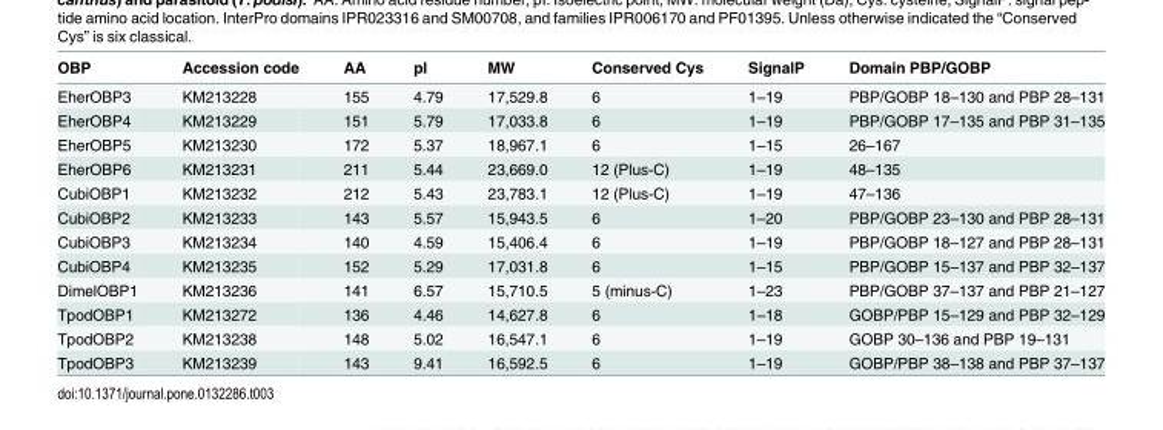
<table><thead><tr><td>OBP</td><td>Accession code</td><td>AA</td><td>pI</td><td>MW</td><td>Conserved Cys</td><td>SignalP</td><td>Domain PBP/GOBP</td></tr></thead><tbody><tr><td>EherOBP3</td><td>KM213228</td><td>155</td><td>4.79</td><td>17,529.8</td><td>6</td><td>1–19</td><td>PBP/GOBP 18–130 and PBP 28–131</td></tr><tr><td>EherOBP4</td><td>KM213229</td><td>151</td><td>5.79</td><td>17,033.8</td><td>6</td><td>1–19</td><td>PBP/GOBP 17–135 and PBP 31–135</td></tr><tr><td>EherOBP5</td><td>KM213230</td><td>172</td><td>5.37</td><td>18,967.1</td><td>6</td><td>1–15</td><td>26–167</td></tr><tr><td>EherOBP6</td><td>KM213231</td><td>211</td><td>5.44</td><td>23,669.0</td><td>12 (Plus-C)</td><td>1–19</td><td>48–135</td></tr><tr><td>CubiOBP1</td><td>KM213232</td><td>212</td><td>5.43</td><td>23,783.1</td><td>12 (Plus-C)</td><td>1–19</td><td>47–136</td></tr><tr><td>CubiOBP2</td><td>KM213233</td><td>143</td><td>5.57</td><td>15,943.5</td><td>6</td><td>1–20</td><td>PBP/GOBP 23–130 and PBP 28–131</td></tr><tr><td>CubiOBP3</td><td>KM213234</td><td>140</td><td>4.59</td><td>15,406.4</td><td>6</td><td>1–19</td><td>PBP/GOBP 18–127 and PBP 28–131</td></tr><tr><td>CubiOBP4</td><td>KM213235</td><td>152</td><td>5.29</td><td>17,031.8</td><td>6</td><td>1–15</td><td>PBP/GOBP 15–137 and PBP 32–137</td></tr><tr><td>DimelOBP1</td><td>KM213236</td><td>141</td><td>6.57</td><td>15,710.5</td><td>5 (minus-C)</td><td>1–23</td><td>PBP/GOBP 37–137 and PBP 21–127</td></tr><tr><td>TpodOBP1</td><td>KM213272</td><td>136</td><td>4.46</td><td>14,627.8</td><td>6</td><td>1–18</td><td>GOBP/PBP 15–129 and PBP 32–129</td></tr><tr><td>TpodOBP2</td><td>KM213238</td><td>148</td><td>5.02</td><td>16,547.1</td><td>6</td><td>1–19</td><td>GOBP 30–136 and PBP 19–131</td></tr><tr><td>TpodOBP3</td><td>KM213239</td><td>143</td><td>9.41</td><td>16,592.5</td><td>6</td><td>1–19</td><td>GOBP/PBP 38–138 and PBP 37–137</td></tr></tbody></table>